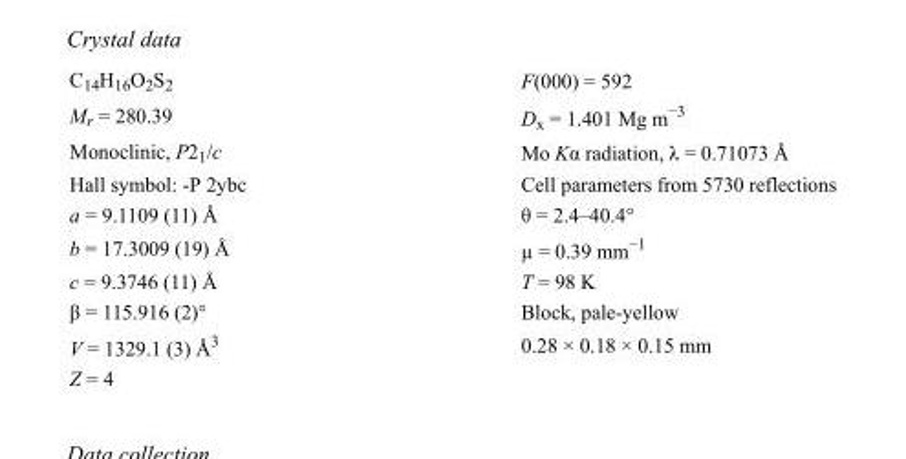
<table><tbody><tr><td>C<sub>14</sub>H<sub>16</sub>O<sub>2</sub>S<sub>2</sub></td><td>F(000) = 592</td></tr><tr><td>M<sub>r</sub> = 280.39</td><td>D<sub>x</sub> = 1.401 Mg m<sup>−3</sup></td></tr><tr><td>Monoclinic, P2<sub>1</sub>/c</td><td>Mo Kα radiation, λ = 0.71073 Å</td></tr><tr><td>Hall symbol: -P 2ybc</td><td>Cell parameters from 5730 reflections</td></tr><tr><td>a = 9.1109 (11) Å</td><td>θ = 2.4–40.4°</td></tr><tr><td>b = 17.3009 (19) Å</td><td>µ = 0.39 mm<sup>−1</sup></td></tr><tr><td>c = 9.3746 (11) Å</td><td>T = 98 K</td></tr><tr><td>β = 115.916 (2)°</td><td>Block, pale-yellow</td></tr><tr><td>V = 1329.1 (3) Å<sup>3</sup></td><td>0.28 × 0.18 × 0.15 mm</td></tr><tr><td>Z = 4</td><td></td></tr></tbody></table>